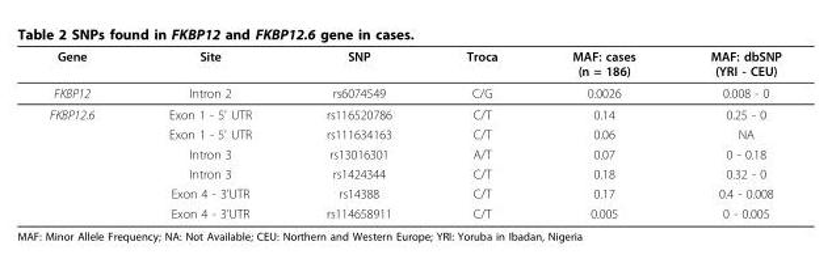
<table><thead><tr><td>Gene</td><td>Site</td><td>SNP</td><td>Troca</td><td>MAF: cases (n = 186)</td><td>MAF: dbSNP (YRI - CEU)</td></tr></thead><tbody><tr><td>FKBP12</td><td>Intron 2</td><td>rs6074549</td><td>C/G</td><td>0.0026</td><td>0.008 - 0</td></tr><tr><td rowspan="6">FKBP12.6</td><td>Exon 1 - 5’ UTR</td><td>rs116520786</td><td>C/T</td><td>0.14</td><td>0.25 - 0</td></tr><tr><td>Exon 1 - 5’ UTR</td><td>rs111634163</td><td>C/T</td><td>0.06</td><td>NA</td></tr><tr><td>Intron 3</td><td>rs13016301</td><td>A/T</td><td>0.07</td><td>0 - 0.18</td></tr><tr><td>Intron 3</td><td>rs1424344</td><td>C/T</td><td>0.18</td><td>0.32 - 0</td></tr><tr><td>Exon 4 - 3’UTR</td><td>rs14388</td><td>C/T</td><td>0.17</td><td>0.4 - 0.008</td></tr><tr><td>Exon 4 - 3’UTR</td><td>rs114658911</td><td>C/T</td><td>0.005</td><td>0 - 0.005</td></tr></tbody></table>